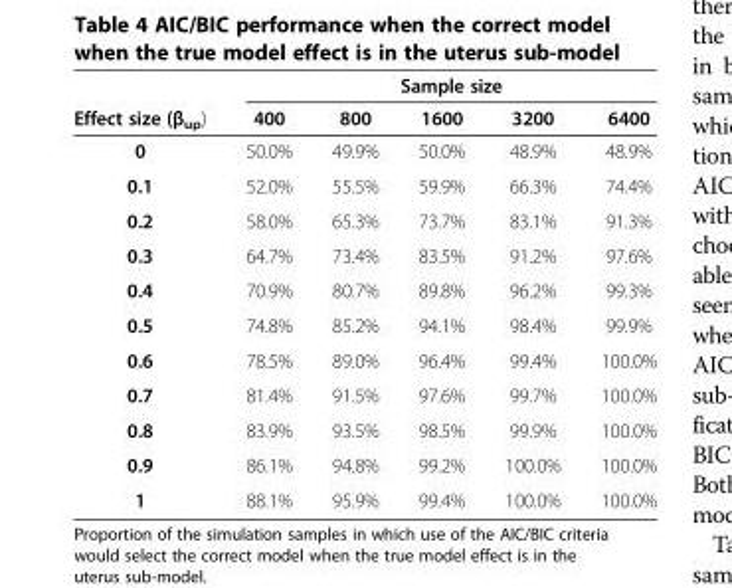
<table><thead><tr><td rowspan="2">Effect size (β<sub>up</sub>)</td><td colspan="5">Sample size</td></tr><tr><td>400</td><td>800</td><td>1600</td><td>3200</td><td>6400</td></tr></thead><tbody><tr><td>0</td><td>50.0%</td><td>49.9%</td><td>50.0%</td><td>48.9%</td><td>48.9%</td></tr><tr><td>0.1</td><td>52.0%</td><td>55.5%</td><td>59.9%</td><td>66.3%</td><td>74.4%</td></tr><tr><td>0.2</td><td>58.0%</td><td>65.3%</td><td>73.7%</td><td>83.1%</td><td>91.3%</td></tr><tr><td>0.3</td><td>64.7%</td><td>73.4%</td><td>83.5%</td><td>91.2%</td><td>97.6%</td></tr><tr><td>0.4</td><td>70.9%</td><td>80.7%</td><td>89.8%</td><td>96.2%</td><td>99.3%</td></tr><tr><td>0.5</td><td>74.8%</td><td>85.2%</td><td>94.1%</td><td>98.4%</td><td>99.9%</td></tr><tr><td>0.6</td><td>78.5%</td><td>89.0%</td><td>96.4%</td><td>99.4%</td><td>100.0%</td></tr><tr><td>0.7</td><td>81.4%</td><td>91.5%</td><td>97.6%</td><td>99.7%</td><td>100.0%</td></tr><tr><td>0.8</td><td>83.9%</td><td>93.5%</td><td>98.5%</td><td>99.9%</td><td>100.0%</td></tr><tr><td>0.9</td><td>86.1%</td><td>94.8%</td><td>99.2%</td><td>100.0%</td><td>100.0%</td></tr><tr><td>1</td><td>88.1%</td><td>95.9%</td><td>99.4%</td><td>100.0%</td><td>100.0%</td></tr></tbody></table>